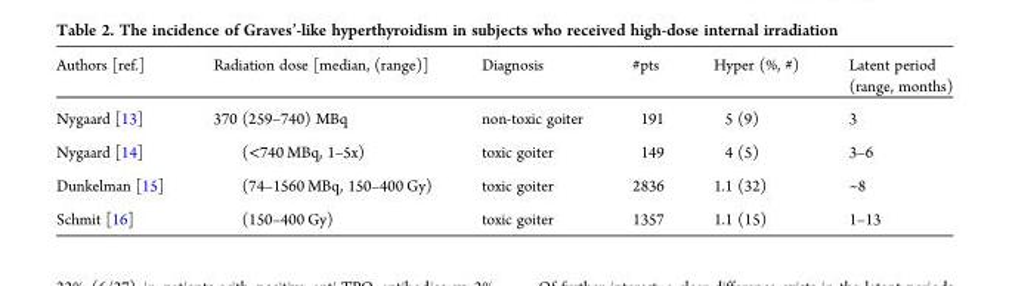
<table><thead><tr><td>Authors [ref.]</td><td>Radiation dose [median, (range)]</td><td>Diagnosis</td><td>#pts</td><td>Hyper (%, #)</td><td>Latent period (range, months)</td></tr></thead><tbody><tr><td>Nygaard [13]</td><td>370 (259–740) MBq</td><td>non-toxic goiter</td><td>191</td><td>5 (9)</td><td>3</td></tr><tr><td>Nygaard [14]</td><td>(&lt;740 MBq, 1–5x)</td><td>toxic goiter</td><td>149</td><td>4 (5)</td><td>3–6</td></tr><tr><td>Dunkelman [15]</td><td>(74–1560 MBq, 150–400 Gy)</td><td>toxic goiter</td><td>2836</td><td>1.1 (32)</td><td>~8</td></tr><tr><td>Schmit [16]</td><td>(150–400 Gy)</td><td>toxic goiter</td><td>1357</td><td>1.1 (15)</td><td>1–13</td></tr></tbody></table>